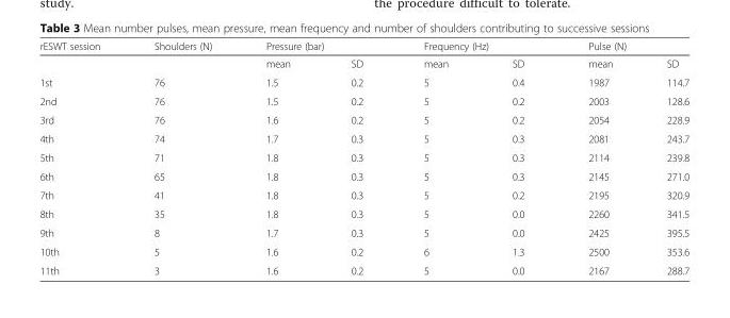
<table><thead><tr><td rowspan="2">rESWT session</td><td rowspan="2">Shoulders (N)</td><td colspan="2">Pressure (bar)</td><td colspan="2">Frequency (Hz)</td><td colspan="2">Pulse (N)</td></tr><tr><td>mean</td><td>SD</td><td>mean</td><td>SD</td><td>mean</td><td>SD</td></tr></thead><tbody><tr><td>1st</td><td>76</td><td>1.5</td><td>0.2</td><td>5</td><td>0.4</td><td>1987</td><td>114.7</td></tr><tr><td>2nd</td><td>76</td><td>1.5</td><td>0.2</td><td>5</td><td>0.2</td><td>2003</td><td>128.6</td></tr><tr><td>3rd</td><td>76</td><td>1.6</td><td>0.2</td><td>5</td><td>0.2</td><td>2054</td><td>228.9</td></tr><tr><td>4th</td><td>74</td><td>1.7</td><td>0.3</td><td>5</td><td>0.3</td><td>2081</td><td>243.7</td></tr><tr><td>5th</td><td>71</td><td>1.8</td><td>0.3</td><td>5</td><td>0.3</td><td>2114</td><td>239.8</td></tr><tr><td>6th</td><td>65</td><td>1.8</td><td>0.3</td><td>5</td><td>0.3</td><td>2145</td><td>271.0</td></tr><tr><td>7th</td><td>41</td><td>1.8</td><td>0.3</td><td>5</td><td>0.2</td><td>2195</td><td>320.9</td></tr><tr><td>8th</td><td>35</td><td>1.8</td><td>0.3</td><td>5</td><td>0.0</td><td>2260</td><td>341.5</td></tr><tr><td>9th</td><td>8</td><td>1.7</td><td>0.3</td><td>5</td><td>0.0</td><td>2425</td><td>395.5</td></tr><tr><td>10th</td><td>5</td><td>1.6</td><td>0.2</td><td>6</td><td>1.3</td><td>2500</td><td>353.6</td></tr><tr><td>11th</td><td>3</td><td>1.6</td><td>0.2</td><td>5</td><td>0.0</td><td>2167</td><td>288.7</td></tr></tbody></table>